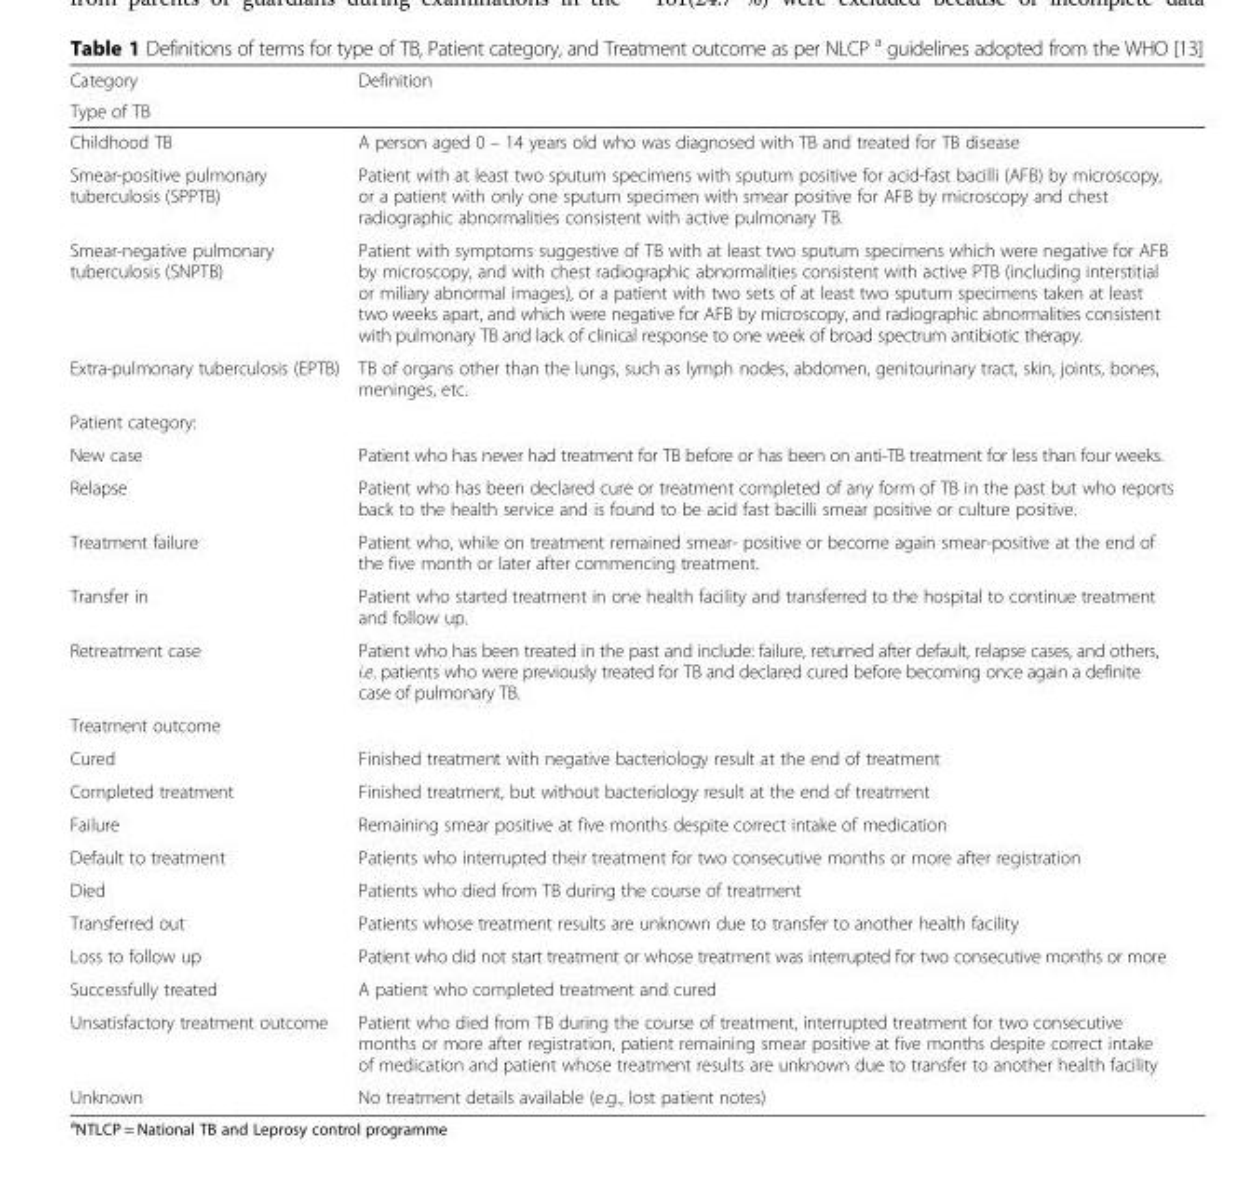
<table><thead><tr><td rowspan="2">Category Type of TB</td><td rowspan="2">Definition</td></tr><tr></tr></thead><tbody><tr><td>Childhood TB</td><td>A person aged 0 – 14 years old who was diagnosed with TB and treated for TB disease</td></tr><tr><td>Smear-positive pulmonary tuberculosis (SPPTB)</td><td>Patient with at least two sputum specimens with sputum positive for acid-fast bacilli (AFB) by microscopy, or a patient with only one sputum specimen with smear positive for AFB by microscopy and chest radiographic abnormalities consistent with active pulmonary TB.</td></tr><tr><td>Smear-negative pulmonary tuberculosis (SNPTB)</td><td>Patient with symptoms suggestive of TB with at least two sputum specimens which were negative for AFB by microscopy, and with chest radiographic abnormalities consistent with active PTB (including interstitial or miliary abnormal images), or a patient with two sets of at least two sputum specimens taken at least two weeks apart, and which were negative for AFB by microscopy, and radiographic abnormalities consistent with pulmonary TB and lack of clinical response to one week of broad spectrum antibiotic therapy.</td></tr><tr><td>Extra-pulmonary tuberculosis (EPTB)</td><td>TB of organs other than the lungs, such as lymph nodes, abdomen, genitourinary tract, skin, joints, bones, meninges, etc.</td></tr><tr><td colspan="2">Patient category:</td></tr><tr><td>New case</td><td>Patient who has never had treatment for TB before or has been on anti-TB treatment for less than four weeks.</td></tr><tr><td>Relapse</td><td>Patient who has been declared cure or treatment completed of any form of TB in the past but who reports back to the health service and is found to be acid fast bacilli smear positive or culture positive.</td></tr><tr><td>Treatment failure</td><td>Patient who, while on treatment remained smear- positive or become again smear-positive at the end of the five month or later after commencing treatment.</td></tr><tr><td>Transfer in</td><td>Patient who started treatment in one health facility and transferred to the hospital to continue treatment and follow up.</td></tr><tr><td>Retreatment case</td><td>Patient who has been treated in the past and include: failure, returned after default, relapse cases, and others, i.e. patients who were previously treated for TB and declared cured before becoming once again a definite case of pulmonary TB.</td></tr><tr><td colspan="2">Treatment outcome</td></tr><tr><td>Cured</td><td>Finished treatment with negative bacteriology result at the end of treatment</td></tr><tr><td>Completed treatment</td><td>Finished treatment, but without bacteriology result at the end of treatment</td></tr><tr><td>Failure</td><td>Remaining smear positive at five months despite correct intake of medication</td></tr><tr><td>Default to treatment</td><td>Patients who interrupted their treatment for two consecutive months or more after registration</td></tr><tr><td>Died</td><td>Patients who died from TB during the course of treatment</td></tr><tr><td>Transferred out</td><td>Patients whose treatment results are unknown due to transfer to another health facility</td></tr><tr><td>Loss to follow up</td><td>Patient who did not start treatment or whose treatment was interrupted for two consecutive months or more</td></tr><tr><td>Successfully treated</td><td>A patient who completed treatment and cured</td></tr><tr><td>Unsatisfactory treatment outcome</td><td>Patient who died from TB during the course of treatment, interrupted treatment for two consecutive months or more after registration, patient remaining smear positive at five months despite correct intake of medication and patient whose treatment results are unknown due to transfer to another health facility</td></tr><tr><td>Unknown</td><td>No treatment details available (e.g., lost patient notes)</td></tr></tbody></table>